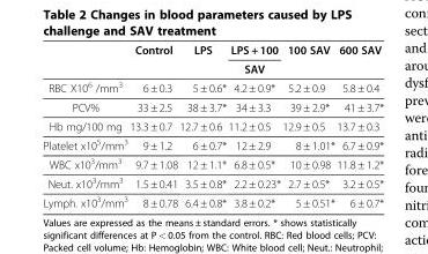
<table><thead><tr><td rowspan="2"></td><td rowspan="2">Control</td><td rowspan="2">LPS</td><td rowspan="2">LPS + 100 SAV</td><td rowspan="2">100 SAV</td><td rowspan="2">600 SAV</td></tr><tr></tr></thead><tbody><tr><td>RBC X10<sup>6</sup> /mm<sup>3</sup></td><td>6 ± 0.3</td><td>5 ± 0.6*</td><td>4.2 ± 0.9*</td><td>5.2 ± 0.9</td><td>5.8 ± 0.4</td></tr><tr><td>PCV%</td><td>33 ± 2.5</td><td>38 ± 3.7*</td><td>34 ± 3.3</td><td>39 ± 2.9*</td><td>41 ± 3.7*</td></tr><tr><td>Hb mg/100 mg</td><td>13.3 ± 0.7</td><td>12.7 ± 0.6</td><td>11.2 ± 0.5</td><td>12.9 ± 0.5</td><td>13.7 ± 0.3</td></tr><tr><td>Platelet x10<sup>5</sup>/mm<sup>3</sup></td><td>9 ± 1.2</td><td>6 ± 0.7*</td><td>12 ± 2.9</td><td>8 ± 1.01*</td><td>6.7 ± 0.9*</td></tr><tr><td>WBC x10<sup>3</sup>/mm<sup>3</sup></td><td>9.7 ± 1.08</td><td>12 ± 1.1*</td><td>6.8 ± 0.5*</td><td>10 ± 0.98</td><td>11.8 ± 1.2*</td></tr><tr><td>Neut. x10<sup>3</sup>/mm<sup>3</sup></td><td>1.5 ± 0.41</td><td>3.5 ± 0.8*</td><td>2.2 ± 0.23*</td><td>2.7 ± 0.5*</td><td>3.2 ± 0.5*</td></tr><tr><td>Lymph. x10<sup>3</sup>/mm<sup>3</sup></td><td>8 ± 0.78</td><td>6.4 ± 0.8*</td><td>3.8 ± 0.2*</td><td>5 ± 0.51*</td><td>6 ± 0.7*</td></tr></tbody></table>